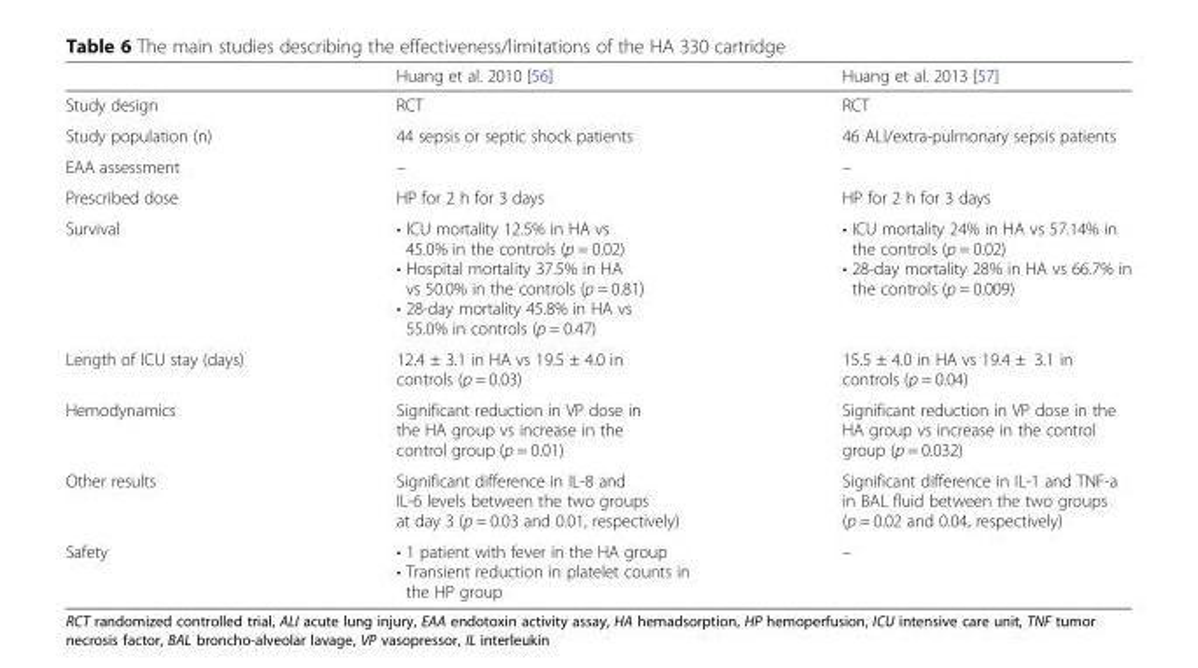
<table><thead><tr><td></td><td>Huang et al. 2010 [56]</td><td>Huang et al. 2013 [57]</td></tr></thead><tbody><tr><td>Study design</td><td>RCT</td><td>RCT</td></tr><tr><td>Study population (n)</td><td>44 sepsis or septic shock patients</td><td>46 ALI/extra-pulmonary sepsis patients</td></tr><tr><td>EAA assessment</td><td>–</td><td>–</td></tr><tr><td>Prescribed dose</td><td>HP for 2 h for 3 days</td><td>HP for 2 h for 3 days</td></tr><tr><td>Survival</td><td>• ICU mortality 12.5% in HA vs 45.0% in the controls (p = 0.02) • Hospital mortality 37.5% in HA vs 50.0% in the controls (p = 0.81) • 28-day mortality 45.8% in HA vs 55.0% in controls (p = 0.47)</td><td>• ICU mortality 24% in HA vs 57.14% in the controls (p = 0.02) • 28-day mortality 28% in HA vs 66.7% in the controls (p = 0.009)</td></tr><tr><td>Length of ICU stay (days)</td><td>12.4 ± 3.1 in HA vs 19.5 ± 4.0 in controls (p = 0.03)</td><td>15.5 ± 4.0 in HA vs 19.4 ± 3.1 in controls (p = 0.04)</td></tr><tr><td>Hemodynamics</td><td>Significant reduction in VP dose in the HA group vs increase in the control group (p = 0.01)</td><td>Significant reduction in VP dose in the HA group vs increase in the control group (p = 0.032)</td></tr><tr><td>Other results</td><td>Significant difference in IL-8 and IL-6 levels between the two groups at day 3 (p = 0.03 and 0.01, respectively)</td><td>Significant difference in IL-1 and TNF-a in BAL fluid between the two groups (p = 0.02 and 0.04, respectively)</td></tr><tr><td>Safety</td><td>• 1 patient with fever in the HA group • Transient reduction in platelet counts in the HP group</td><td>–</td></tr></tbody></table>